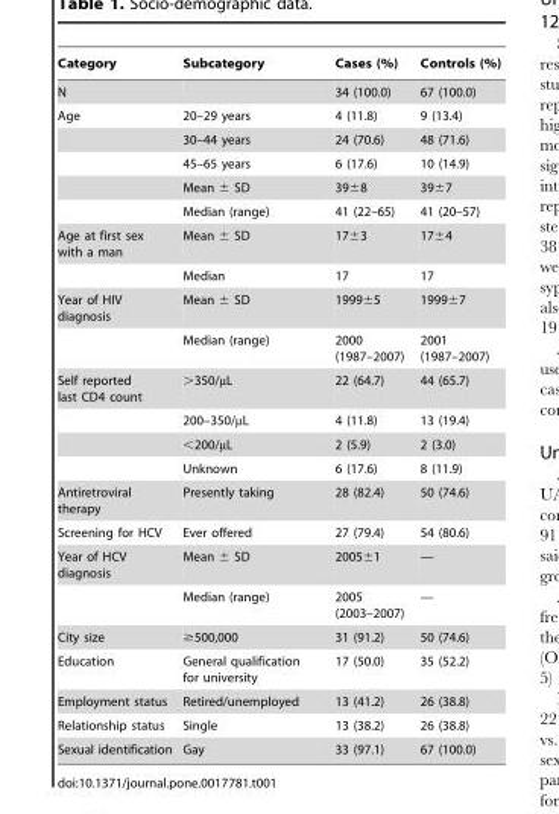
<table><thead><tr><td>Category</td><td>Subcategory</td><td>Cases (%)</td><td>Controls (%)</td></tr></thead><tbody><tr><td>N</td><td></td><td>34 (100.0)</td><td>67 (100.0)</td></tr><tr><td rowspan="5">Age</td><td>20–29 years</td><td>4 (11.8)</td><td>9 (13.4)</td></tr><tr><td>30–44 years</td><td>24 (70.6)</td><td>48 (71.6)</td></tr><tr><td>45–65 years</td><td>6 (17.6)</td><td>10 (14.9)</td></tr><tr><td>Mean ± SD</td><td>39±8</td><td>39±7</td></tr><tr><td>Median (range)</td><td>41 (22–65)</td><td>41 (20–57)</td></tr><tr><td rowspan="2">Age at first sex with a man</td><td>Mean ± SD</td><td>17±3</td><td>17±4</td></tr><tr><td>Median</td><td>17</td><td>17</td></tr><tr><td rowspan="2">Year of HIV diagnosis</td><td>Mean ± SD</td><td>1999±5</td><td>1999±7</td></tr><tr><td>Median (range)</td><td>2000 (1987–2007)</td><td>2001 (1987–2007)</td></tr><tr><td rowspan="4">Self reported last CD4 count</td><td>&gt;350/µL</td><td>22 (64.7)</td><td>44 (65.7)</td></tr><tr><td>200–350/µL</td><td>4 (11.8)</td><td>13 (19.4)</td></tr><tr><td>&lt;200/µL</td><td>2 (5.9)</td><td>2 (3.0)</td></tr><tr><td>Unknown</td><td>6 (17.6)</td><td>8 (11.9)</td></tr><tr><td>Antiretroviral therapy</td><td>Presently taking</td><td>28 (82.4)</td><td>50 (74.6)</td></tr><tr><td>Screening for HCV</td><td>Ever offered</td><td>27 (79.4)</td><td>54 (80.6)</td></tr><tr><td rowspan="2">Year of HCV diagnosis</td><td>Mean ± SD</td><td>2005±1</td><td>—</td></tr><tr><td>Median (range)</td><td>2005 (2003–2007)</td><td>—</td></tr><tr><td>City size</td><td>≥500,000</td><td>31 (91.2)</td><td>50 (74.6)</td></tr><tr><td>Education</td><td>General qualification for university</td><td>17 (50.0)</td><td>35 (52.2)</td></tr><tr><td>Employment status</td><td>Retired/unemployed</td><td>13 (41.2)</td><td>26 (38.8)</td></tr><tr><td>Relationship status</td><td>Single</td><td>13 (38.2)</td><td>26 (38.8)</td></tr><tr><td>Sexual identification</td><td>Gay</td><td>33 (97.1)</td><td>67 (100.0)</td></tr></tbody></table>